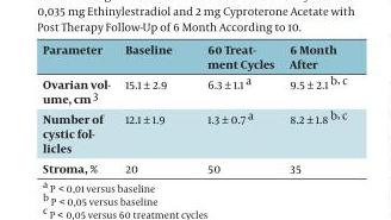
<table><thead><tr><td>Parameter</td><td>Baseline</td><td>60 Treat- ment Cycles</td><td>6 Month After</td></tr></thead><tbody><tr><td>Ovarian vol- ume, cm 3</td><td>15.1 ± 2.9</td><td>6.3 ± 1.1 a</td><td>9.5 ± 2.1 b, c</td></tr><tr><td>Number of cystic fol- licles</td><td>12.1 ± 1.9</td><td>1.3 ± 0.7 a</td><td>8.2 ± 1.8 b, c</td></tr><tr><td>Stroma, %</td><td>20</td><td>50</td><td>35</td></tr></tbody></table>